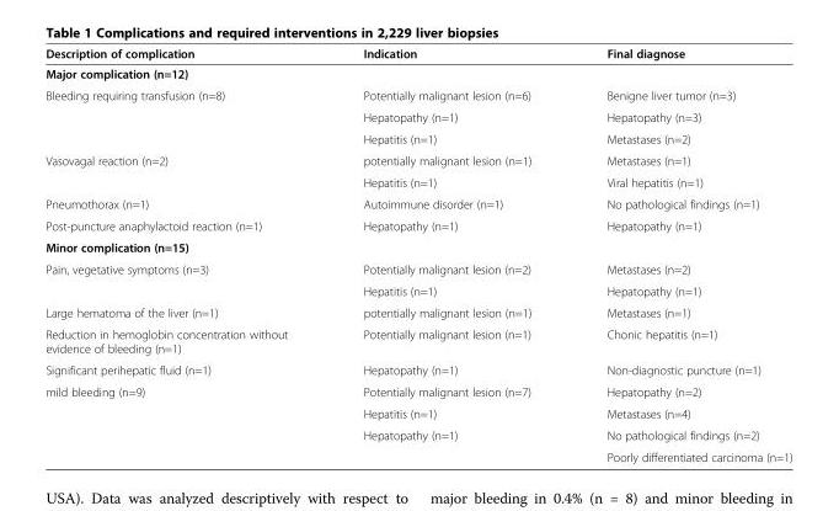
<table><thead><tr><td>Description of complication</td><td>Indication</td><td>Final diagnose</td></tr></thead><tbody><tr><td colspan="3">Major complication (n=12)</td></tr><tr><td rowspan="3">Bleeding requiring transfusion (n=8)</td><td>Potentially malignant lesion (n=6)</td><td>Benigne liver tumor (n=3)</td></tr><tr><td>Hepatopathy (n=1)</td><td>Hepatopathy (n=3)</td></tr><tr><td>Hepatitis (n=1)</td><td>Metastases (n=2)</td></tr><tr><td rowspan="2">Vasovagal reaction (n=2)</td><td>potentially malignant lesion (n=1)</td><td>Metastases (n=1)</td></tr><tr><td>Hepatitis (n=1)</td><td>Viral hepatitis (n=1)</td></tr><tr><td>Pneumothorax (n=1)</td><td>Autoimmune disorder (n=1)</td><td>No pathological findings (n=1)</td></tr><tr><td>Post-puncture anaphylactoid reaction (n=1)</td><td>Hepatopathy (n=1)</td><td>Hepatopathy (n=1)</td></tr><tr><td colspan="3">Minor complication (n=15)</td></tr><tr><td rowspan="2">Pain, vegetative symptoms (n=3)</td><td>Potentially malignant lesion (n=2)</td><td>Metastases (n=2)</td></tr><tr><td>Hepatitis (n=1)</td><td>Hepatopathy (n=1)</td></tr><tr><td>Large hematoma of the liver (n=1)</td><td>potentially malignant lesion (n=1)</td><td>Metastases (n=1)</td></tr><tr><td>Reduction in hemoglobin concentration without evidence of bleeding (n=1)</td><td>Potentially malignant lesion (n=1)</td><td>Chonic hepatitis (n=1)</td></tr><tr><td>Significant perihepatic fluid (n=1)</td><td>Hepatopathy (n=1)</td><td>Non-diagnostic puncture (n=1)</td></tr><tr><td rowspan="4">mild bleeding (n=9)</td><td>Potentially malignant lesion (n=7)</td><td>Hepatopathy (n=2)</td></tr><tr><td>Hepatitis (n=1)</td><td>Metastases (n=4)</td></tr><tr><td rowspan="2">Hepatopathy (n=1)</td><td>No pathological findings (n=2)</td></tr><tr><td>Poorly differentiated carcinoma (n=1)</td></tr></tbody></table>